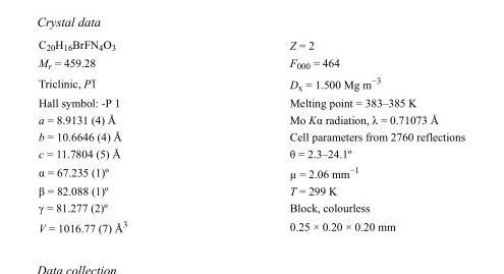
<table><tbody><tr><td>C<sub>20</sub>H<sub>16</sub>BrFN<sub>4</sub>O<sub>3</sub></td><td>Z = 2</td></tr><tr><td>M<sub>r</sub> = 459.28</td><td>F000 = 464</td></tr><tr><td>Triclinic, P1</td><td>D<sub>x</sub> = 1.500 Mg m<sup>−3</sup></td></tr><tr><td>Hall symbol: -P 1</td><td>Melting point = 383–385 K</td></tr><tr><td>a = 8.9131 (4) Å</td><td>Mo Kα radiation, λ = 0.71073 Å</td></tr><tr><td>b = 10.6646 (4) Å</td><td>Cell parameters from 2760 reflections</td></tr><tr><td>c = 11.7804 (5) Å</td><td>θ = 2.3–24.1º</td></tr><tr><td>α = 67.235 (1)º</td><td>µ = 2.06 mm<sup>−1</sup></td></tr><tr><td>β = 82.088 (1)º</td><td>T = 299 K</td></tr><tr><td>γ = 81.277 (2)º</td><td>Block, colourless</td></tr><tr><td>V = 1016.77 (7) Å<sup>3</sup></td><td>0.25 × 0.20 × 0.20 mm</td></tr></tbody></table>